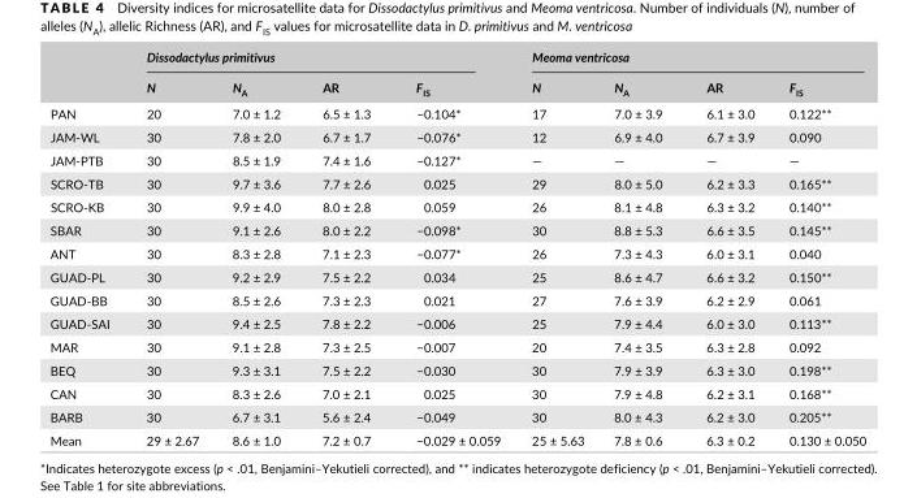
<table><thead><tr><td rowspan="2"></td><td colspan="4">Dissodactylus primitivus</td><td colspan="4">Meoma ventricosa</td></tr><tr><td>N</td><td>N<sub>A</sub></td><td>AR</td><td>F<sub>IS</sub></td><td>N</td><td>N<sub>A</sub></td><td>AR</td><td>F<sub>IS</sub></td></tr></thead><tbody><tr><td>PAN</td><td>20</td><td>7.0 ± 1.2</td><td>6.5 ± 1.3</td><td>−0.104*</td><td>17</td><td>7.0 ± 3.9</td><td>6.1 ± 3.0</td><td>0.122**</td></tr><tr><td>JAM- WL</td><td>30</td><td>7.8 ± 2.0</td><td>6.7 ± 1.7</td><td>−0.076*</td><td>12</td><td>6.9 ± 4.0</td><td>6.7 ± 3.9</td><td>0.090</td></tr><tr><td>JAM- PTB</td><td>30</td><td>8.5 ± 1.9</td><td>7.4 ± 1.6</td><td>−0.127*</td><td>—</td><td>—</td><td>—</td><td>—</td></tr><tr><td>SCRO- TB</td><td>30</td><td>9.7 ± 3.6</td><td>7.7 ± 2.6</td><td>0.025</td><td>29</td><td>8.0 ± 5.0</td><td>6.2 ± 3.3</td><td>0.165**</td></tr><tr><td>SCRO- KB</td><td>30</td><td>9.9 ± 4.0</td><td>8.0 ± 2.8</td><td>0.059</td><td>26</td><td>8.1 ± 4.8</td><td>6.3 ± 3.2</td><td>0.140**</td></tr><tr><td>SBAR</td><td>30</td><td>9.1 ± 2.6</td><td>8.0 ± 2.2</td><td>−0.098*</td><td>30</td><td>8.8 ± 5.3</td><td>6.6 ± 3.5</td><td>0.145**</td></tr><tr><td>ANT</td><td>30</td><td>8.3 ± 2.8</td><td>7.1 ± 2.3</td><td>−0.077*</td><td>26</td><td>7.3 ± 4.3</td><td>6.0 ± 3.1</td><td>0.040</td></tr><tr><td>GUAD- PL</td><td>30</td><td>9.2 ± 2.9</td><td>7.5 ± 2.2</td><td>0.034</td><td>25</td><td>8.6 ± 4.7</td><td>6.6 ± 3.2</td><td>0.150**</td></tr><tr><td>GUAD- BB</td><td>30</td><td>8.5 ± 2.6</td><td>7.3 ± 2.3</td><td>0.021</td><td>27</td><td>7.6 ± 3.9</td><td>6.2 ± 2.9</td><td>0.061</td></tr><tr><td>GUAD- SAI</td><td>30</td><td>9.4 ± 2.5</td><td>7.8 ± 2.2</td><td>−0.006</td><td>25</td><td>7.9 ± 4.4</td><td>6.0 ± 3.0</td><td>0.113**</td></tr><tr><td>MAR</td><td>30</td><td>9.1 ± 2.8</td><td>7.3 ± 2.5</td><td>−0.007</td><td>20</td><td>7.4 ± 3.5</td><td>6.3 ± 2.8</td><td>0.092</td></tr><tr><td>BEQ</td><td>30</td><td>9.3 ± 3.1</td><td>7.5 ± 2.2</td><td>−0.030</td><td>30</td><td>7.9 ± 3.9</td><td>6.3 ± 3.0</td><td>0.198**</td></tr><tr><td>CAN</td><td>30</td><td>8.3 ± 2.6</td><td>7.0 ± 2.1</td><td>0.025</td><td>30</td><td>7.9 ± 4.8</td><td>6.2 ± 3.1</td><td>0.168**</td></tr><tr><td>BARB</td><td>30</td><td>6.7 ± 3.1</td><td>5.6 ± 2.4</td><td>−0.049</td><td>30</td><td>8.0 ± 4.3</td><td>6.2 ± 3.0</td><td>0.205**</td></tr><tr><td>Mean</td><td>29 ± 2.67</td><td>8.6 ± 1.0</td><td>7.2 ± 0.7</td><td>−0.029 ± 0.059</td><td>25 ± 5.63</td><td>7.8 ± 0.6</td><td>6.3 ± 0.2</td><td>0.130 ± 0.050</td></tr></tbody></table>